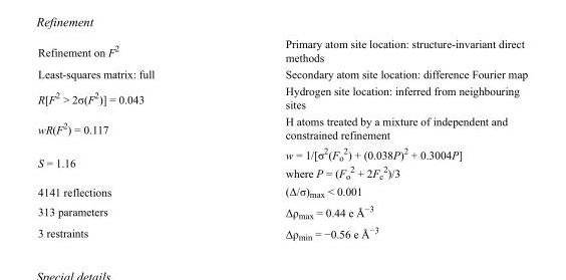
<table><tbody><tr><td>Refinement on F<sup>2</sup></td><td>Primary atom site location: structure-invariant direct methods</td></tr><tr><td>Least-squares matrix: full</td><td>Secondary atom site location: difference Fourier map</td></tr><tr><td>R[F<sup>2</sup> &gt; 2σ(F<sup>2</sup>)] = 0.043</td><td>Hydrogen site location: inferred from neighbouring sites</td></tr><tr><td>wR(F<sup>2</sup>) = 0.117</td><td>H atoms treated by a mixture of independent and constrained refinement</td></tr><tr><td>S = 1.16</td><td>w = 1/[σ<sup>2</sup>(F<sub>o</sub> <sup>2</sup>) + (0.038P)<sup>2</sup> + 0.3004P] where P = (F<sub>o</sub> <sup>2</sup> + 2F<sub>c</sub> <sup>2</sup>)/3</td></tr><tr><td>4141 reflections</td><td>(Δ/σ)<sub>max</sub> &lt; 0.001</td></tr><tr><td>313 parameters</td><td>Δρ<sub>max</sub> = 0.44 e Å<sup>−3</sup></td></tr><tr><td>3 restraints</td><td>Δρ<sub>min</sub> = −0.56 e Å<sup>−3</sup></td></tr></tbody></table>